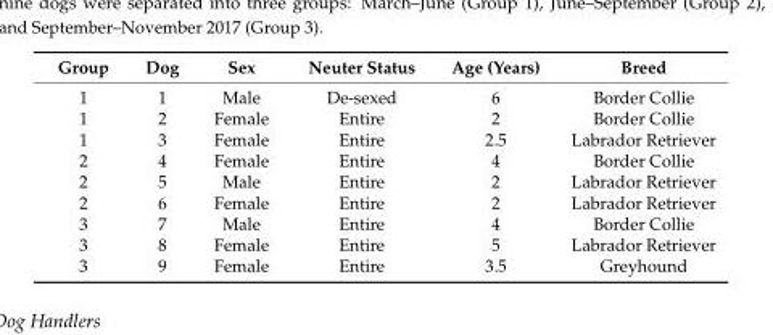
<table><thead><tr><td>Group</td><td>Dog</td><td>Sex</td><td>Neuter Status</td><td>Age (Years)</td><td>Breed</td></tr></thead><tbody><tr><td>1</td><td>1</td><td>Male</td><td>De-sexed</td><td>6</td><td>Border Collie</td></tr><tr><td>1</td><td>2</td><td>Female</td><td>Entire</td><td>2</td><td>Border Collie</td></tr><tr><td>1</td><td>3</td><td>Female</td><td>Entire</td><td>2.5</td><td>Labrador Retriever</td></tr><tr><td>2</td><td>4</td><td>Female</td><td>Entire</td><td>4</td><td>Border Collie</td></tr><tr><td>2</td><td>5</td><td>Male</td><td>Entire</td><td>2</td><td>Labrador Retriever</td></tr><tr><td>2</td><td>6</td><td>Female</td><td>Entire</td><td>2</td><td>Labrador Retriever</td></tr><tr><td>3</td><td>7</td><td>Male</td><td>Entire</td><td>4</td><td>Border Collie</td></tr><tr><td>3</td><td>8</td><td>Female</td><td>Entire</td><td>5</td><td>Labrador Retriever</td></tr><tr><td>3</td><td>9</td><td>Female</td><td>Entire</td><td>3.5</td><td>Greyhound</td></tr></tbody></table>